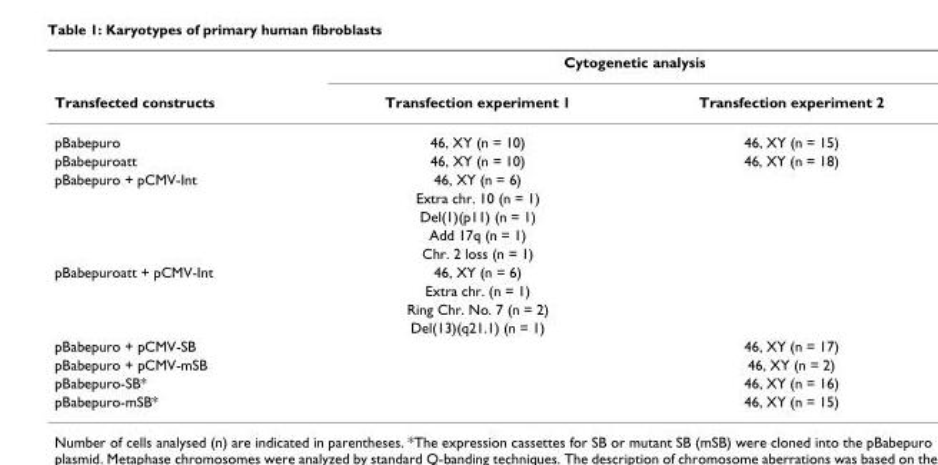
<table><thead><tr><td rowspan="2">Transfected constructs</td><td colspan="2">Cytogenetic analysis</td></tr><tr><td>Transfection experiment 1</td><td>Transfection experiment 2</td></tr></thead><tbody><tr><td>pBabepuro</td><td>46, XY (n = 10)</td><td>46, XY (n = 15)</td></tr><tr><td>pBabepuroatt</td><td>46, XY (n = 10)</td><td>46, XY (n = 18)</td></tr><tr><td rowspan="5">pBabepuro + pCMV-Int</td><td>46, XY (n = 6)</td><td></td></tr><tr><td>Extra chr. 10 (n = 1)</td><td></td></tr><tr><td>Del(1)(p11) (n = 1)</td><td></td></tr><tr><td>Add 17q (n = 1)</td><td></td></tr><tr><td>Chr. 2 loss (n = 1)</td><td></td></tr><tr><td rowspan="4">pBabepuroatt + pCMV-Int</td><td>46, XY (n = 6)</td><td></td></tr><tr><td>Extra chr. (n = 1)</td><td></td></tr><tr><td>Ring Chr. No. 7 (n = 2)</td><td></td></tr><tr><td>Del(13)(q21.1) (n = 1)</td><td></td></tr><tr><td>pBabepuro + pCMV-SB</td><td></td><td>46, XY (n = 17)</td></tr><tr><td>pBabepuro + pCMV-mSB</td><td></td><td>46, XY (n = 2)</td></tr><tr><td>pBabepuro-SB*</td><td></td><td>46, XY (n = 16)</td></tr><tr><td>pBabepuro-mSB*</td><td></td><td>46, XY (n = 15)</td></tr></tbody></table>